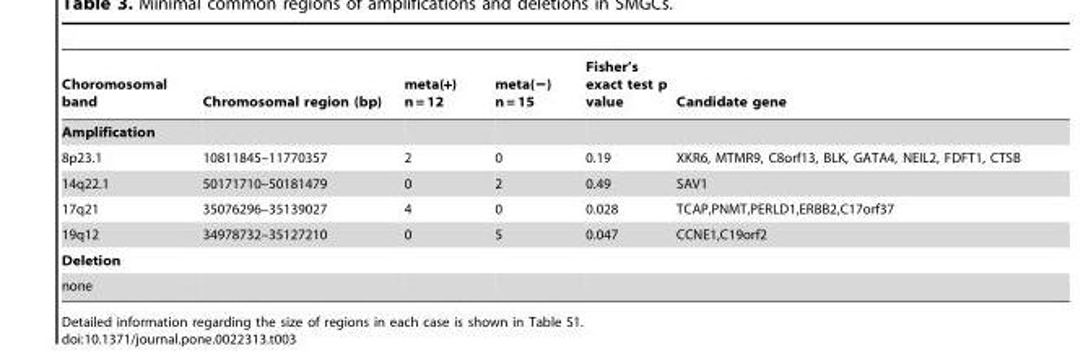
<table><thead><tr><td>Choromosomal band</td><td>Chromosomal region (bp)</td><td>meta(+) n = 12</td><td>meta(−) n = 15</td><td>Fisher’s exact test p value</td><td>Candidate gene</td></tr></thead><tbody><tr><td colspan="6">Amplification</td></tr><tr><td>8p23.1</td><td>10811845–11770357</td><td>2</td><td>0</td><td>0.19</td><td>XKR6, MTMR9, C8orf13, BLK, GATA4, NEIL2, FDFT1, CTSB</td></tr><tr><td>14q22.1</td><td>50171710–50181479</td><td>0</td><td>2</td><td>0.49</td><td>SAV1</td></tr><tr><td>17q21</td><td>35076296–35139027</td><td>4</td><td>0</td><td>0.028</td><td>TCAP,PNMT,PERLD1,ERBB2,C17orf37</td></tr><tr><td>19q12</td><td>34978732–35127210</td><td>0</td><td>5</td><td>0.047</td><td>CCNE1,C19orf2</td></tr><tr><td colspan="6">Deletion</td></tr><tr><td>none</td><td></td><td></td><td></td><td></td><td></td></tr></tbody></table>